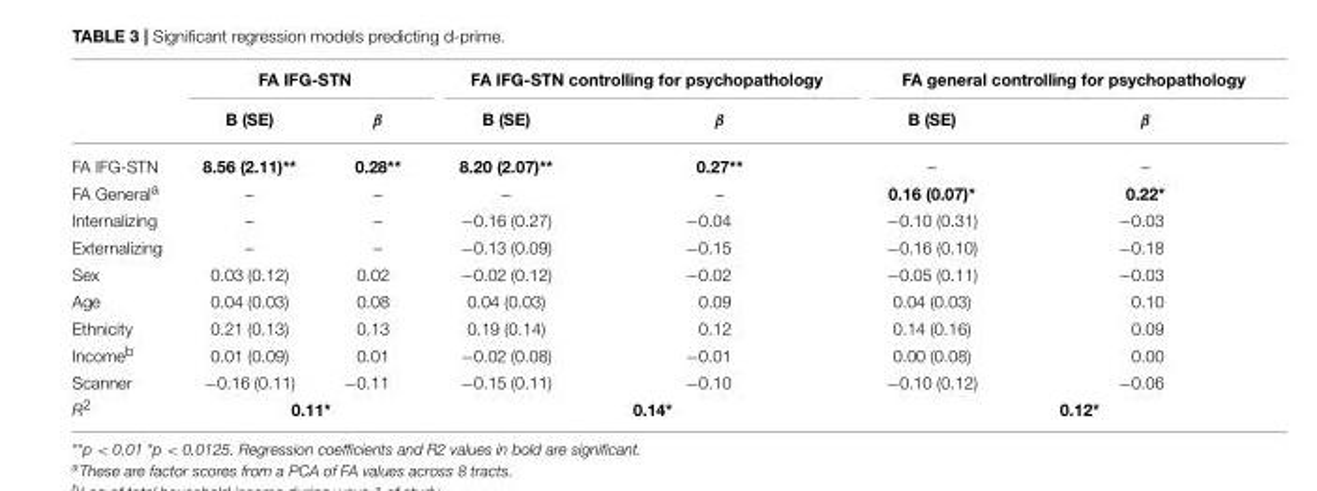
<table><thead><tr><td rowspan="2"></td><td colspan="2">FA IFG-STN</td><td colspan="2">FA IFG-STN controlling for psychopathology</td><td colspan="2">FA general controlling for psychopathology</td></tr><tr><td>B (SE)</td><td>β</td><td>B (SE)</td><td>β</td><td>B (SE)</td><td>β</td></tr></thead><tbody><tr><td>FA IFG-STN</td><td>8.56 (2.11)**</td><td>0.28**</td><td>8.20 (2.07)**</td><td>0.27**</td><td>–</td><td>–</td></tr><tr><td>FA General<sup>a</sup></td><td>–</td><td>–</td><td>–</td><td>–</td><td>0.16 (0.07)*</td><td>0.22*</td></tr><tr><td>Internalizing</td><td>–</td><td>–</td><td>−0.16 (0.27)</td><td>−0.04</td><td>−0.10 (0.31)</td><td>−0.03</td></tr><tr><td>Externalizing</td><td>–</td><td>–</td><td>−0.13 (0.09)</td><td>−0.15</td><td>−0.16 (0.10)</td><td>−0.18</td></tr><tr><td>Sex</td><td>0.03 (0.12)</td><td>0.02</td><td>−0.02 (0.12)</td><td>−0.02</td><td>−0.05 (0.11)</td><td>−0.03</td></tr><tr><td>Age</td><td>0.04 (0.03)</td><td>0.08</td><td>0.04 (0.03)</td><td>0.09</td><td>0.04 (0.03)</td><td>0.10</td></tr><tr><td>Ethnicity</td><td>0.21 (0.13)</td><td>0.13</td><td>0.19 (0.14)</td><td>0.12</td><td>0.14 (0.16)</td><td>0.09</td></tr><tr><td>Income<sup>b</sup></td><td>0.01 (0.09)</td><td>0.01</td><td>−0.02 (0.08)</td><td>−0.01</td><td>0.00 (0.08)</td><td>0.00</td></tr><tr><td>Scanner</td><td>−0.16 (0.11)</td><td>−0.11</td><td>−0.15 (0.11)</td><td>−0.10</td><td>−0.10 (0.12)</td><td>−0.06</td></tr><tr><td>R<sup>2</sup></td><td colspan="2">0.11*</td><td colspan="2">0.14*</td><td colspan="2">0.12*</td></tr></tbody></table>